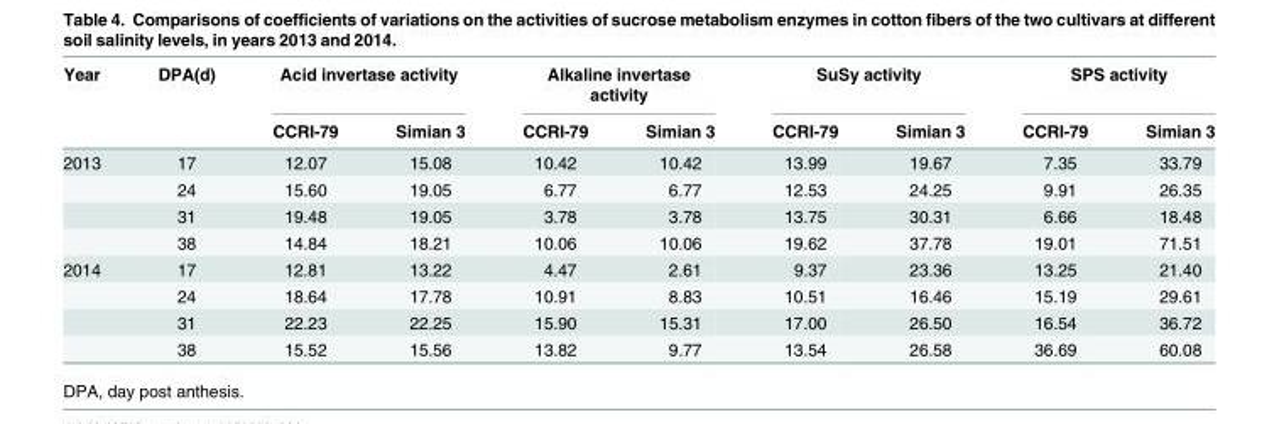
<table><thead><tr><td rowspan="2">Year</td><td rowspan="2">DPA(d)</td><td colspan="2">Acid invertase activity</td><td colspan="2">Alkaline invertase activity</td><td colspan="2">SuSy activity</td><td colspan="2">SPS activity</td></tr><tr><td>CCRI-79</td><td>Simian 3</td><td>CCRI-79</td><td>Simian 3</td><td>CCRI-79</td><td>Simian 3</td><td>CCRI-79</td><td>Simian 3</td></tr></thead><tbody><tr><td rowspan="4">2013</td><td>17</td><td>12.07</td><td>15.08</td><td>10.42</td><td>10.42</td><td>13.99</td><td>19.67</td><td>7.35</td><td>33.79</td></tr><tr><td>24</td><td>15.60</td><td>19.05</td><td>6.77</td><td>6.77</td><td>12.53</td><td>24.25</td><td>9.91</td><td>26.35</td></tr><tr><td>31</td><td>19.48</td><td>19.05</td><td>3.78</td><td>3.78</td><td>13.75</td><td>30.31</td><td>6.66</td><td>18.48</td></tr><tr><td>38</td><td>14.84</td><td>18.21</td><td>10.06</td><td>10.06</td><td>19.62</td><td>37.78</td><td>19.01</td><td>71.51</td></tr><tr><td rowspan="4">2014</td><td>17</td><td>12.81</td><td>13.22</td><td>4.47</td><td>2.61</td><td>9.37</td><td>23.36</td><td>13.25</td><td>21.40</td></tr><tr><td>24</td><td>18.64</td><td>17.78</td><td>10.91</td><td>8.83</td><td>10.51</td><td>16.46</td><td>15.19</td><td>29.61</td></tr><tr><td>31</td><td>22.23</td><td>22.25</td><td>15.90</td><td>15.31</td><td>17.00</td><td>26.50</td><td>16.54</td><td>36.72</td></tr><tr><td>38</td><td>15.52</td><td>15.56</td><td>13.82</td><td>9.77</td><td>13.54</td><td>26.58</td><td>36.69</td><td>60.08</td></tr></tbody></table>